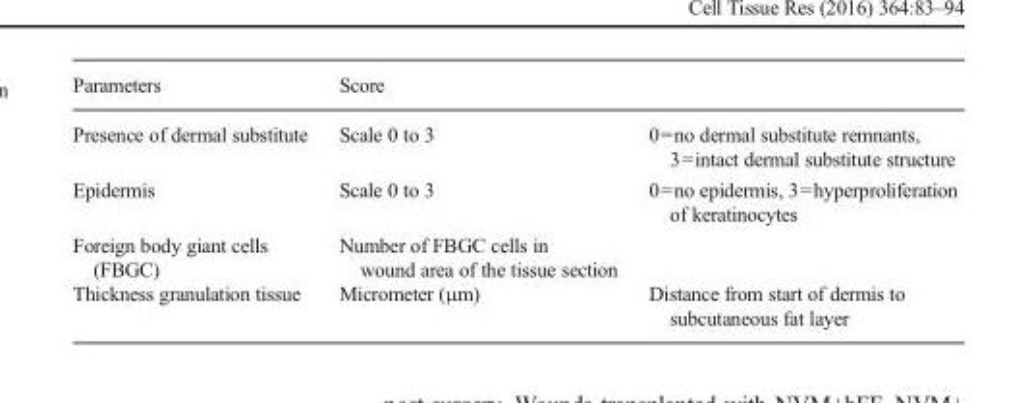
<table><thead><tr><td>Parameters</td><td>Score</td><td></td></tr></thead><tbody><tr><td>Presence of dermal substitute</td><td>Scale 0 to 3</td><td>0=no dermal substitute remnants, 3=intact dermal substitute structure</td></tr><tr><td>Epidermis</td><td>Scale 0 to 3</td><td>0=no epidermis, 3=hyperproliferation of keratinocytes</td></tr><tr><td>Foreign body giant cells (FBGC)</td><td>Number of FBGC cells in wound area of the tissue section</td><td></td></tr><tr><td>Thickness granulation tissue</td><td>Micrometer (μm)</td><td>Distance from start of dermis to subcutaneous fat layer</td></tr></tbody></table>